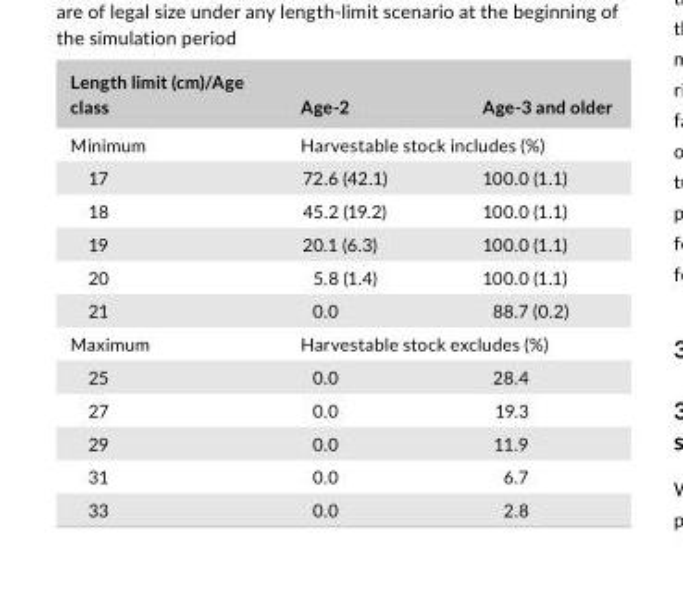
<table><thead><tr><td>Length limit (cm)/Age class</td><td>Age- 2</td><td>Age- 3 and older</td></tr></thead><tbody><tr><td>Minimum</td><td colspan="2">Harvestable stock includes (%)</td></tr><tr><td>17</td><td>72.6 (42.1)</td><td>100.0 (1.1)</td></tr><tr><td>18</td><td>45.2 (19.2)</td><td>100.0 (1.1)</td></tr><tr><td>19</td><td>20.1 (6.3)</td><td>100.0 (1.1)</td></tr><tr><td>20</td><td>5.8 (1.4)</td><td>100.0 (1.1)</td></tr><tr><td>21</td><td>0.0</td><td>88.7 (0.2)</td></tr><tr><td>Maximum</td><td colspan="2">Harvestable stock excludes (%)</td></tr><tr><td>25</td><td>0.0</td><td>28.4</td></tr><tr><td>27</td><td>0.0</td><td>19.3</td></tr><tr><td>29</td><td>0.0</td><td>11.9</td></tr><tr><td>31</td><td>0.0</td><td>6.7</td></tr><tr><td>33</td><td>0.0</td><td>2.8</td></tr></tbody></table>